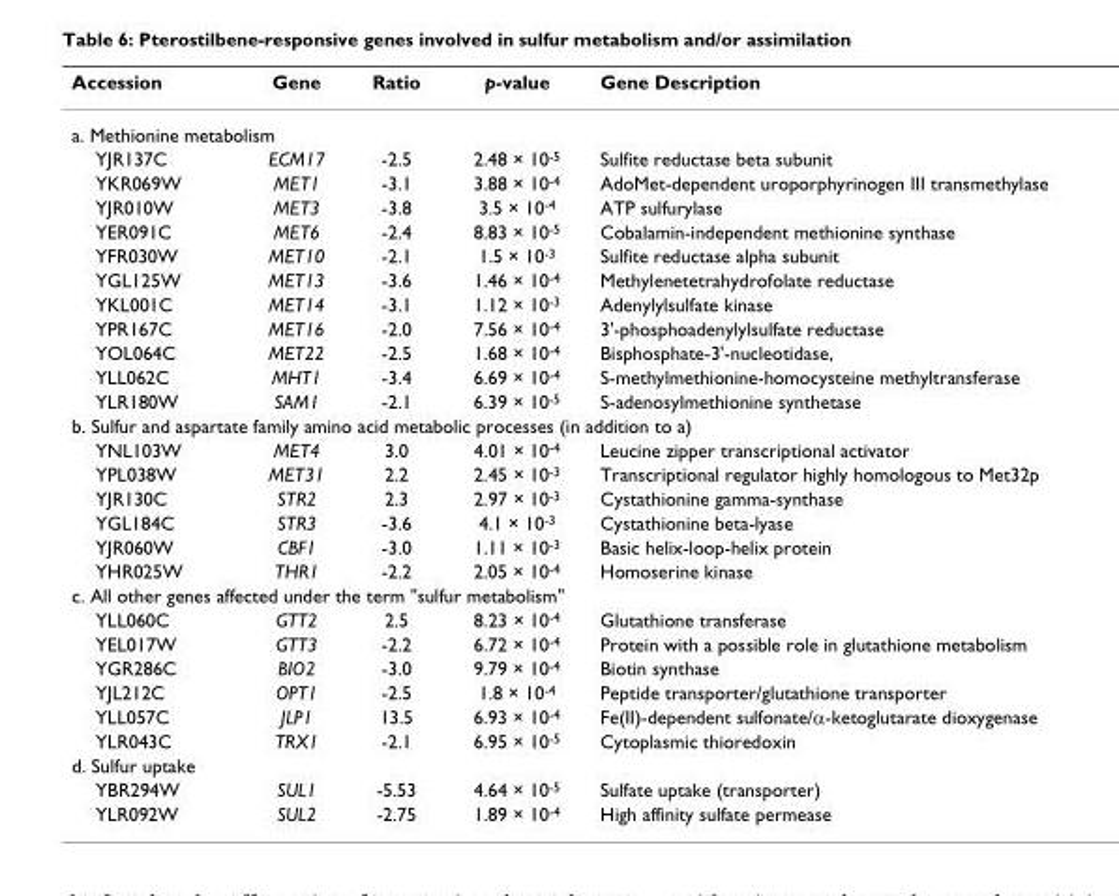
<table><thead><tr><td>Accession</td><td>Gene</td><td>Ratio</td><td>p-value</td><td>Gene Description</td></tr></thead><tbody><tr><td colspan="5">a. Methionine metabolism</td></tr><tr><td>YJR137C</td><td>ECM17</td><td>-2.5</td><td>2.48 × 10<sup>-5</sup></td><td>Sulfite reductase beta subunit</td></tr><tr><td>YKR069W</td><td>MET1</td><td>-3.1</td><td>3.88 × 10<sup>-4</sup></td><td>AdoMet-dependent uroporphyrinogen III transmethylase</td></tr><tr><td>YJR010W</td><td>MET3</td><td>-3.8</td><td>3.5 × 10<sup>-4</sup></td><td>ATP sulfurylase</td></tr><tr><td>YER091C</td><td>MET6</td><td>-2.4</td><td>8.83 × 10<sup>-5</sup></td><td>Cobalamin-independent methionine synthase</td></tr><tr><td>YFR030W</td><td>MET10</td><td>-2.1</td><td>1.5 × 10<sup>-3</sup></td><td>Sulfite reductase alpha subunit</td></tr><tr><td>YGL125W</td><td>MET13</td><td>-3.6</td><td>1.46 × 10<sup>-4</sup></td><td>Methylenetetrahydrofolate reductase</td></tr><tr><td>YKL001C</td><td>MET14</td><td>-3.1</td><td>1.12 × 10<sup>-3</sup></td><td>Adenylylsulfate kinase</td></tr><tr><td>YPR167C</td><td>MET16</td><td>-2.0</td><td>7.56 × 10<sup>-4</sup></td><td>3&#x27;-phosphoadenylylsulfate reductase</td></tr><tr><td>YOL064C</td><td>MET22</td><td>-2.5</td><td>1.68 × 10<sup>-4</sup></td><td>Bisphosphate-3&#x27;-nucleotidase,</td></tr><tr><td>YLL062C</td><td>MHT1</td><td>-3.4</td><td>6.69 × 10<sup>-4</sup></td><td>S-methylmethionine-homocysteine methyltransferase</td></tr><tr><td>YLR180W</td><td>SAM1</td><td>-2.1</td><td>6.39 × 10<sup>-5</sup></td><td>S-adenosylmethionine synthetase</td></tr><tr><td colspan="5">b. Sulfur and aspartate family amino acid metabolic processes (in addition to a)</td></tr><tr><td>YNL103W</td><td>MET4</td><td>3.0</td><td>4.01 × 10<sup>-4</sup></td><td>Leucine zipper transcriptional activator</td></tr><tr><td>YPL038W</td><td>MET31</td><td>2.2</td><td>2.45 × 10<sup>-3</sup></td><td>Transcriptional regulator highly homologous to Met32p</td></tr><tr><td>YJR130C</td><td>STR2</td><td>2.3</td><td>2.97 × 10<sup>-3</sup></td><td>Cystathionine gamma-synthase</td></tr><tr><td>YGL184C</td><td>STR3</td><td>-3.6</td><td>4.1 × 10<sup>-3</sup></td><td>Cystathionine beta-lyase</td></tr><tr><td>YJR060W</td><td>CBF1</td><td>-3.0</td><td>1.11 × 10<sup>-3</sup></td><td>Basic helix-loop-helix protein</td></tr><tr><td>YHR025W</td><td>THR1</td><td>-2.2</td><td>2.05 × 10<sup>-4</sup></td><td>Homoserine kinase</td></tr><tr><td colspan="5">c. All other genes affected under the term &quot;sulfur metabolism&quot;</td></tr><tr><td>YLL060C</td><td>GTT2</td><td>2.5</td><td>8.23 × 10<sup>-4</sup></td><td>Glutathione transferase</td></tr><tr><td>YEL017W</td><td>GTT3</td><td>-2.2</td><td>6.72 × 10<sup>-4</sup></td><td>Protein with a possible role in glutathione metabolism</td></tr><tr><td>YGR286C</td><td>BIO2</td><td>-3.0</td><td>9.79 × 10<sup>-4</sup></td><td>Biotin synthase</td></tr><tr><td>YJL212C</td><td>OPT1</td><td>-2.5</td><td>1.8 × 10<sup>-4</sup></td><td>Peptide transporter/glutathione transporter</td></tr><tr><td>YLL057C</td><td>JLP1</td><td>13.5</td><td>6.93 × 10<sup>-4</sup></td><td>Fe(II)-dependent sulfonate/α-ketoglutarate dioxygenase</td></tr><tr><td>YLR043C</td><td>TRX1</td><td>-2.1</td><td>6.95 × 10<sup>-5</sup></td><td>Cytoplasmic thioredoxin</td></tr><tr><td colspan="5">d. Sulfur uptake</td></tr><tr><td>YBR294W</td><td>SUL1</td><td>-5.53</td><td>4.64 × 10<sup>-5</sup></td><td>Sulfate uptake (transporter)</td></tr><tr><td>YLR092W</td><td>SUL2</td><td>-2.75</td><td>1.89 × 10<sup>-4</sup></td><td>High affinity sulfate permease</td></tr></tbody></table>